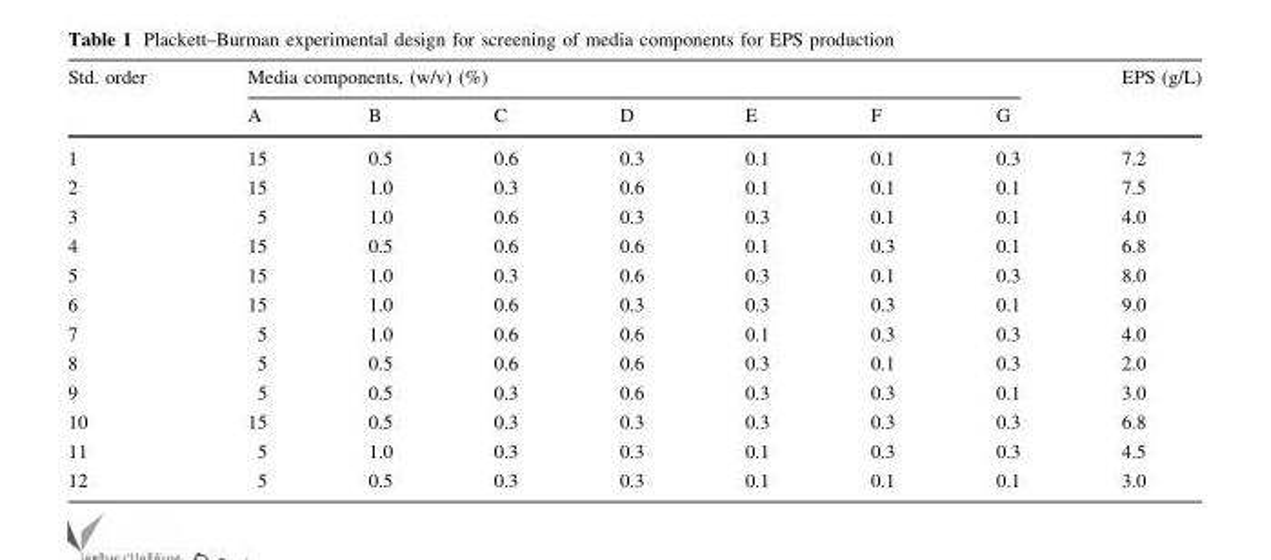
<table><thead><tr><td rowspan="2">Std. order</td><td colspan="7">Media components, (w/v) (%)</td><td rowspan="2">EPS (g/L)</td></tr><tr><td>A</td><td>B</td><td>C</td><td>D</td><td>E</td><td>F</td><td>G</td></tr></thead><tbody><tr><td>1</td><td>15</td><td>0.5</td><td>0.6</td><td>0.3</td><td>0.1</td><td>0.1</td><td>0.3</td><td>7.2</td></tr><tr><td>2</td><td>15</td><td>1.0</td><td>0.3</td><td>0.6</td><td>0.1</td><td>0.1</td><td>0.1</td><td>7.5</td></tr><tr><td>3</td><td>5</td><td>1.0</td><td>0.6</td><td>0.3</td><td>0.3</td><td>0.1</td><td>0.1</td><td>4.0</td></tr><tr><td>4</td><td>15</td><td>0.5</td><td>0.6</td><td>0.6</td><td>0.1</td><td>0.3</td><td>0.1</td><td>6.8</td></tr><tr><td>5</td><td>15</td><td>1.0</td><td>0.3</td><td>0.6</td><td>0.3</td><td>0.1</td><td>0.3</td><td>8.0</td></tr><tr><td>6</td><td>15</td><td>1.0</td><td>0.6</td><td>0.3</td><td>0.3</td><td>0.3</td><td>0.1</td><td>9.0</td></tr><tr><td>7</td><td>5</td><td>1.0</td><td>0.6</td><td>0.6</td><td>0.1</td><td>0.3</td><td>0.3</td><td>4.0</td></tr><tr><td>8</td><td>5</td><td>0.5</td><td>0.6</td><td>0.6</td><td>0.3</td><td>0.1</td><td>0.3</td><td>2.0</td></tr><tr><td>9</td><td>5</td><td>0.5</td><td>0.3</td><td>0.6</td><td>0.3</td><td>0.3</td><td>0.1</td><td>3.0</td></tr><tr><td>10</td><td>15</td><td>0.5</td><td>0.3</td><td>0.3</td><td>0.3</td><td>0.3</td><td>0.3</td><td>6.8</td></tr><tr><td>11</td><td>5</td><td>1.0</td><td>0.3</td><td>0.3</td><td>0.1</td><td>0.3</td><td>0.3</td><td>4.5</td></tr><tr><td>12</td><td>5</td><td>0.5</td><td>0.3</td><td>0.3</td><td>0.1</td><td>0.1</td><td>0.1</td><td>3.0</td></tr></tbody></table>